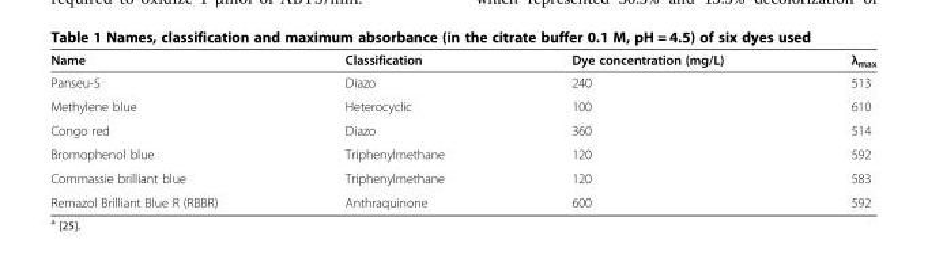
<table><thead><tr><td>Name</td><td>Classification</td><td>Dye concentration (mg/L)</td><td>λ<sub>max</sub></td></tr></thead><tbody><tr><td>Panseu-S</td><td>Diazo</td><td>240</td><td>513</td></tr><tr><td>Methylene blue</td><td>Heterocyclic</td><td>100</td><td>610</td></tr><tr><td>Congo red</td><td>Diazo</td><td>360</td><td>514</td></tr><tr><td>Bromophenol blue</td><td>Triphenylmethane</td><td>120</td><td>592</td></tr><tr><td>Commassie brilliant blue</td><td>Triphenylmethane</td><td>120</td><td>583</td></tr><tr><td>Remazol Brilliant Blue R (RBBR)</td><td>Anthraquinone</td><td>600</td><td>592</td></tr></tbody></table>